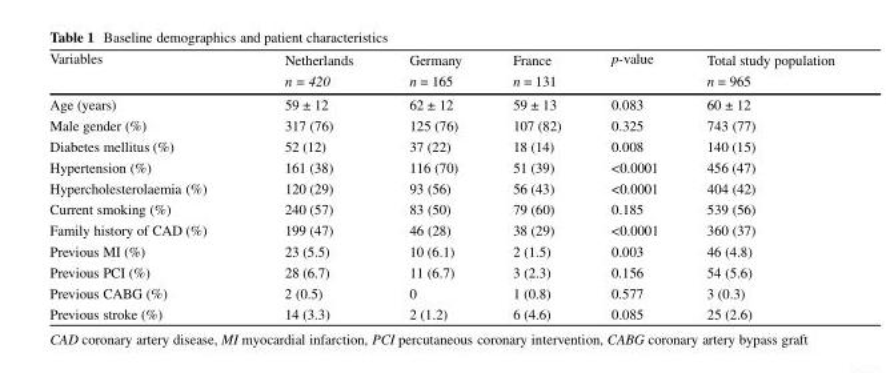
<table><thead><tr><td rowspan="2">Variables</td><td rowspan="2">Netherlands n = 420</td><td rowspan="2">Germany n = 165</td><td rowspan="2">France n = 131</td><td rowspan="2">p-value</td><td rowspan="2">Total study population n = 965</td></tr><tr></tr></thead><tbody><tr><td>Age (years)</td><td>59 ± 12</td><td>62 ± 12</td><td>59 ± 13</td><td>0.083</td><td>60 ± 12</td></tr><tr><td>Male gender (%)</td><td>317 (76)</td><td>125 (76)</td><td>107 (82)</td><td>0.325</td><td>743 (77)</td></tr><tr><td>Diabetes mellitus (%)</td><td>52 (12)</td><td>37 (22)</td><td>18 (14)</td><td>0.008</td><td>140 (15)</td></tr><tr><td>Hypertension (%)</td><td>161 (38)</td><td>116 (70)</td><td>51 (39)</td><td>&lt;0.0001</td><td>456 (47)</td></tr><tr><td>Hypercholesterolaemia (%)</td><td>120 (29)</td><td>93 (56)</td><td>56 (43)</td><td>&lt;0.0001</td><td>404 (42)</td></tr><tr><td>Current smoking (%)</td><td>240 (57)</td><td>83 (50)</td><td>79 (60)</td><td>0.185</td><td>539 (56)</td></tr><tr><td>Family history of CAD (%)</td><td>199 (47)</td><td>46 (28)</td><td>38 (29)</td><td>&lt;0.0001</td><td>360 (37)</td></tr><tr><td>Previous MI (%)</td><td>23 (5.5)</td><td>10 (6.1)</td><td>2 (1.5)</td><td>0.003</td><td>46 (4.8)</td></tr><tr><td>Previous PCI (%)</td><td>28 (6.7)</td><td>11 (6.7)</td><td>3 (2.3)</td><td>0.156</td><td>54 (5.6)</td></tr><tr><td>Previous CABG (%)</td><td>2 (0.5)</td><td>0</td><td>1 (0.8)</td><td>0.577</td><td>3 (0.3)</td></tr><tr><td>Previous stroke (%)</td><td>14 (3.3)</td><td>2 (1.2)</td><td>6 (4.6)</td><td>0.085</td><td>25 (2.6)</td></tr></tbody></table>